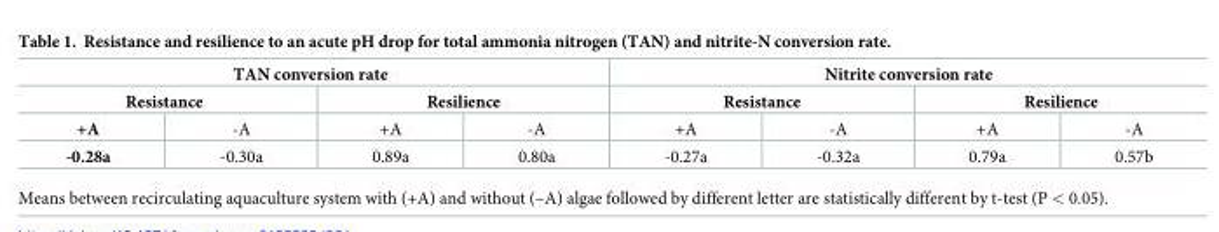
<table><thead><tr><td colspan="4">TAN conversion rate</td><td colspan="4">Nitrite conversion rate</td></tr><tr><td colspan="2">Resistance</td><td colspan="2">Resilience</td><td colspan="2">Resistance</td><td colspan="2">Resilience</td></tr><tr><td>+A</td><td>-A</td><td>+A</td><td>-A</td><td>+A</td><td>-A</td><td>+A</td><td>-A</td></tr></thead><tbody><tr><td>-0.28a</td><td>-0.30a</td><td>0.89a</td><td>0.80a</td><td>-0.27a</td><td>-0.32a</td><td>0.79a</td><td>0.57b</td></tr></tbody></table>